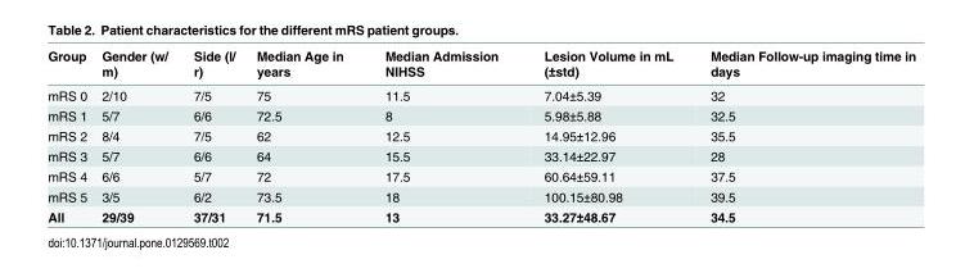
<table><thead><tr><td>Group</td><td>Gender (w/ m)</td><td>Side (l/ r)</td><td>Median Age in years</td><td>Median Admission NIHSS</td><td>Lesion Volume in mL (±std)</td><td>Median Follow-up imaging time in days</td></tr></thead><tbody><tr><td>mRS 0</td><td>2/10</td><td>7/5</td><td>75</td><td>11.5</td><td>7.04±5.39</td><td>32</td></tr><tr><td>mRS 1</td><td>5/7</td><td>6/6</td><td>72.5</td><td>8</td><td>5.98±5.88</td><td>32.5</td></tr><tr><td>mRS 2</td><td>8/4</td><td>7/5</td><td>62</td><td>12.5</td><td>14.95±12.96</td><td>35.5</td></tr><tr><td>mRS 3</td><td>5/7</td><td>6/6</td><td>64</td><td>15.5</td><td>33.14±22.97</td><td>28</td></tr><tr><td>mRS 4</td><td>6/6</td><td>5/7</td><td>72</td><td>17.5</td><td>60.64±59.11</td><td>37.5</td></tr><tr><td>mRS 5</td><td>3/5</td><td>6/2</td><td>73.5</td><td>18</td><td>100.15±80.98</td><td>39.5</td></tr><tr><td>All</td><td>29/39</td><td>37/31</td><td>71.5</td><td>13</td><td>33.27±48.67</td><td>34.5</td></tr></tbody></table>